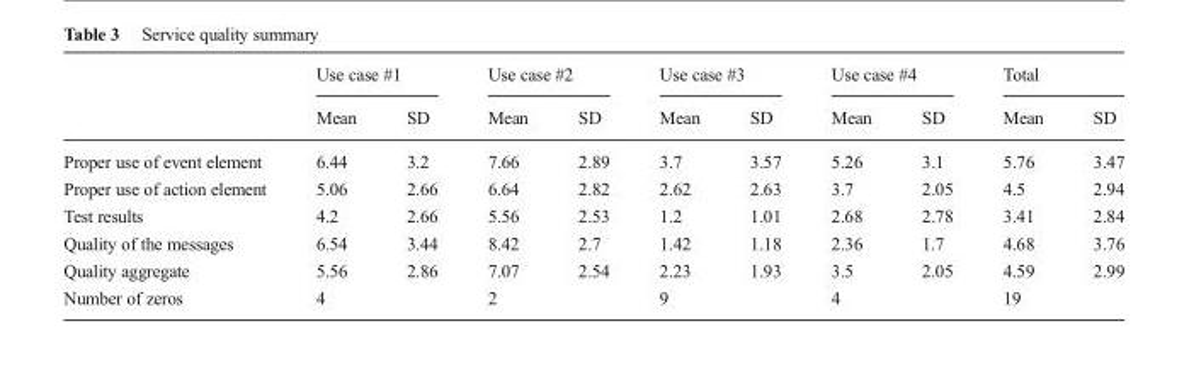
<table><thead><tr><td rowspan="2"></td><td colspan="2">Use case #1</td><td colspan="2">Use case #2</td><td colspan="2">Use case #3</td><td colspan="2">Use case #4</td><td colspan="2">Total</td></tr><tr><td>Mean</td><td>SD</td><td>Mean</td><td>SD</td><td>Mean</td><td>SD</td><td>Mean</td><td>SD</td><td>Mean</td><td>SD</td></tr></thead><tbody><tr><td>Proper use of event element</td><td>6.44</td><td>3.2</td><td>7.66</td><td>2.89</td><td>3.7</td><td>3.57</td><td>5.26</td><td>3.1</td><td>5.76</td><td>3.47</td></tr><tr><td>Proper use of action element</td><td>5.06</td><td>2.66</td><td>6.64</td><td>2.82</td><td>2.62</td><td>2.63</td><td>3.7</td><td>2.05</td><td>4.5</td><td>2.94</td></tr><tr><td>Test results</td><td>4.2</td><td>2.66</td><td>5.56</td><td>2.53</td><td>1.2</td><td>1.01</td><td>2.68</td><td>2.78</td><td>3.41</td><td>2.84</td></tr><tr><td>Quality of the messages</td><td>6.54</td><td>3.44</td><td>8.42</td><td>2.7</td><td>1.42</td><td>1.18</td><td>2.36</td><td>1.7</td><td>4.68</td><td>3.76</td></tr><tr><td>Quality aggregate</td><td>5.56</td><td>2.86</td><td>7.07</td><td>2.54</td><td>2.23</td><td>1.93</td><td>3.5</td><td>2.05</td><td>4.59</td><td>2.99</td></tr><tr><td>Number of zeros</td><td colspan="2">4</td><td colspan="2">2</td><td colspan="2">9</td><td colspan="2">4</td><td colspan="2">19</td></tr></tbody></table>